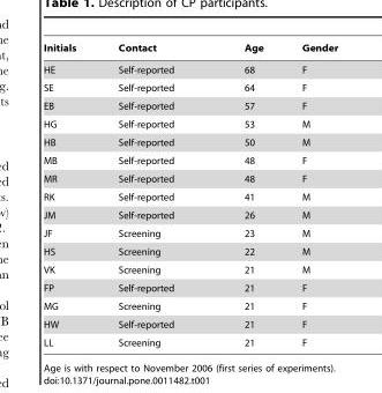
<table><thead><tr><td>Initials</td><td>Contact</td><td>Age</td><td>Gender</td></tr></thead><tbody><tr><td>HE</td><td>Self-reported</td><td>68</td><td>F</td></tr><tr><td>SE</td><td>Self-reported</td><td>64</td><td>F</td></tr><tr><td>EB</td><td>Self-reported</td><td>57</td><td>F</td></tr><tr><td>HG</td><td>Self-reported</td><td>53</td><td>M</td></tr><tr><td>HB</td><td>Self-reported</td><td>50</td><td>M</td></tr><tr><td>MB</td><td>Self-reported</td><td>48</td><td>F</td></tr><tr><td>MR</td><td>Self-reported</td><td>48</td><td>F</td></tr><tr><td>RK</td><td>Self-reported</td><td>41</td><td>M</td></tr><tr><td>JM</td><td>Self-reported</td><td>26</td><td>M</td></tr><tr><td>JF</td><td>Screening</td><td>23</td><td>M</td></tr><tr><td>HS</td><td>Screening</td><td>22</td><td>M</td></tr><tr><td>VK</td><td>Screening</td><td>21</td><td>M</td></tr><tr><td>FP</td><td>Self-reported</td><td>21</td><td>F</td></tr><tr><td>MG</td><td>Screening</td><td>21</td><td>F</td></tr><tr><td>HW</td><td>Self-reported</td><td>21</td><td>F</td></tr><tr><td>LL</td><td>Screening</td><td>21</td><td>F</td></tr></tbody></table>